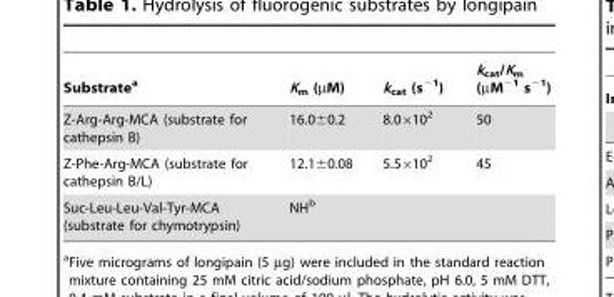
<table><thead><tr><td>Substrate<sup>a</sup></td><td>K<sub>m</sub> (µM)</td><td>k<sub>cat</sub> (s<sup>−1</sup>)</td><td>k<sub>cat</sub>/K<sub>m</sub> (µM<sup>−1</sup> s<sup>−1</sup>)</td></tr></thead><tbody><tr><td>Z-Arg-Arg-MCA (substrate for cathepsin B)</td><td>16.0±0.2</td><td>8.0×10<sup>2</sup></td><td>50</td></tr><tr><td>Z-Phe-Arg-MCA (substrate for cathepsin B/L)</td><td>12.1±0.08</td><td>5.5×10<sup>2</sup></td><td>45</td></tr><tr><td>Suc-Leu-Leu-Val-Tyr-MCA (substrate for chymotrypsin)</td><td>NH<sup>b</sup></td><td></td><td></td></tr></tbody></table>